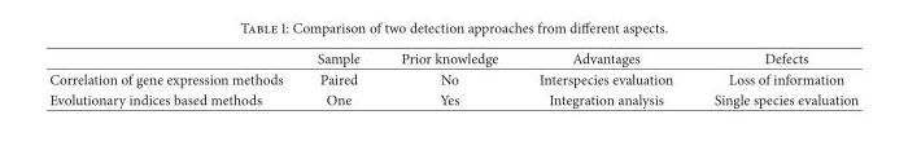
<table><thead><tr><td></td><td>Sample</td><td>Prior knowledge</td><td>Advantages</td><td>Defects</td></tr></thead><tbody><tr><td>Correlation of gene expression methods</td><td>Paired</td><td>No</td><td>Interspecies evaluation</td><td>Loss of information</td></tr><tr><td>Evolutionary indices based methods</td><td>One</td><td>Yes</td><td>Integration analysis</td><td>Single species evaluation</td></tr></tbody></table>